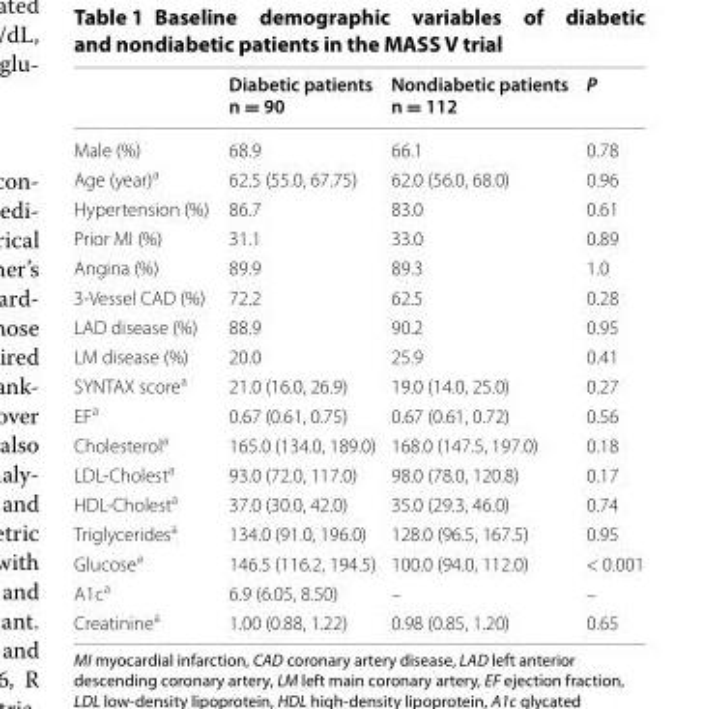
<table><thead><tr><td></td><td>Diabetic patients n = 90</td><td>Nondiabetic patients n = 112</td><td>P</td></tr></thead><tbody><tr><td>Male (%)</td><td>68.9</td><td>66.1</td><td>0.78</td></tr><tr><td>Age (year)<sup>a</sup></td><td>62.5 (55.0, 67.75)</td><td>62.0 (56.0, 68.0)</td><td>0.96</td></tr><tr><td>Hypertension (%)</td><td>86.7</td><td>83.0</td><td>0.61</td></tr><tr><td>Prior MI (%)</td><td>31.1</td><td>33.0</td><td>0.89</td></tr><tr><td>Angina (%)</td><td>89.9</td><td>89.3</td><td>1.0</td></tr><tr><td>3-Vessel CAD (%)</td><td>72.2</td><td>62.5</td><td>0.28</td></tr><tr><td>LAD disease (%)</td><td>88.9</td><td>90.2</td><td>0.95</td></tr><tr><td>LM disease (%)</td><td>20.0</td><td>25.9</td><td>0.41</td></tr><tr><td>SYNTAX score<sup>a</sup></td><td>21.0 (16.0, 26.9)</td><td>19.0 (14.0, 25.0)</td><td>0.27</td></tr><tr><td>EF<sup>a</sup></td><td>0.67 (0.61, 0.75)</td><td>0.67 (0.61, 0.72)</td><td>0.56</td></tr><tr><td>Cholesterol<sup>a</sup></td><td>165.0 (134.0, 189.0)</td><td>168.0 (147.5, 197.0)</td><td>0.18</td></tr><tr><td>LDL-Cholest<sup>a</sup></td><td>93.0 (72.0, 117.0)</td><td>98.0 (78.0, 120.8)</td><td>0.17</td></tr><tr><td>HDL-Cholest<sup>a</sup></td><td>37.0 (30.0, 42.0)</td><td>35.0 (29.3, 46.0)</td><td>0.74</td></tr><tr><td>Triglycerides<sup>a</sup></td><td>134.0 (91.0, 196.0)</td><td>128.0 (96.5, 167.5)</td><td>0.95</td></tr><tr><td>Glucose<sup>a</sup></td><td>146.5 (116.2, 194.5)</td><td>100.0 (94.0, 112.0)</td><td>&lt; 0.001</td></tr><tr><td>A1c<sup>a</sup></td><td>6.9 (6.05, 8.50)</td><td>–</td><td>–</td></tr><tr><td>Creatinine<sup>a</sup></td><td>1.00 (0.88, 1.22)</td><td>0.98 (0.85, 1.20)</td><td>0.65</td></tr></tbody></table>